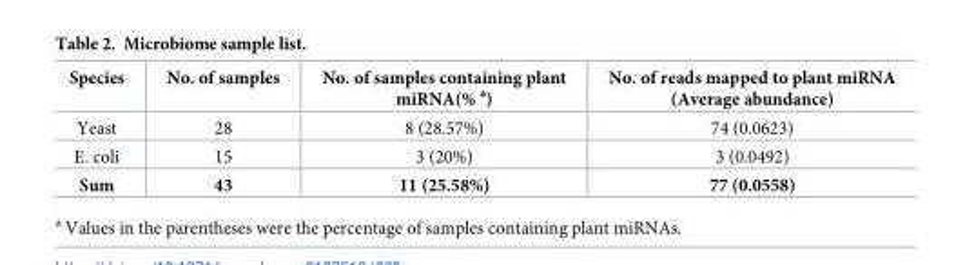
<table><thead><tr><td>Species</td><td>No. of samples</td><td>No. of samples containing plant miRNA(% <sup>a</sup>)</td><td>No. of reads mapped to plant miRNA (Average abundance)</td></tr></thead><tbody><tr><td>Yeast</td><td>28</td><td>8 (28.57%)</td><td>74 (0.0623)</td></tr><tr><td>E. coli</td><td>15</td><td>3 (20%)</td><td>3 (0.0492)</td></tr><tr><td>Sum</td><td>43</td><td>11 (25.58%)</td><td>77 (0.0558)</td></tr></tbody></table>